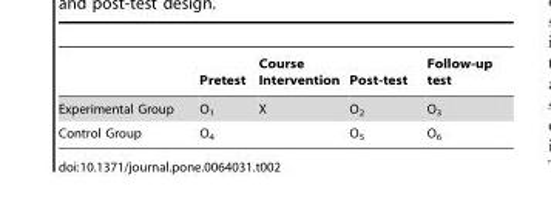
<table><thead><tr><td></td><td>Pretest</td><td>Course Intervention</td><td>Post-test</td><td>Follow-up test</td></tr></thead><tbody><tr><td>Experimental Group</td><td>O<sub>1</sub></td><td>X</td><td>O<sub>2</sub></td><td>O<sub>3</sub></td></tr><tr><td>Control Group</td><td>O<sub>4</sub></td><td></td><td>O<sub>5</sub></td><td>O<sub>6</sub></td></tr></tbody></table>